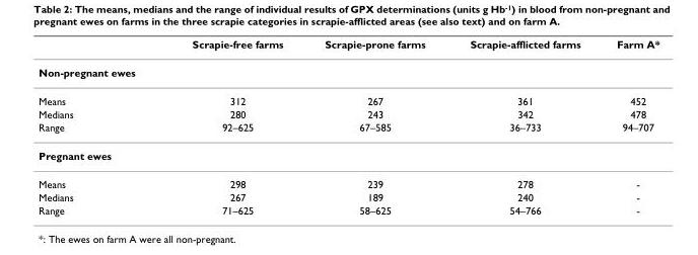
<table><thead><tr><td></td><td>Scrapie-free farms</td><td>Scrapie-prone farms</td><td>Scrapie-afflicted farms</td><td>Farm A*</td></tr></thead><tbody><tr><td colspan="5">Non-pregnant ewes</td></tr><tr><td>Means</td><td>312</td><td>267</td><td>361</td><td>452</td></tr><tr><td>Medians</td><td>280</td><td>243</td><td>342</td><td>478</td></tr><tr><td>Range</td><td>92–625</td><td>67–585</td><td>36–733</td><td>94–707</td></tr><tr><td colspan="5">Pregnant ewes</td></tr><tr><td>Means</td><td>298</td><td>239</td><td>278</td><td>-</td></tr><tr><td>Medians</td><td>267</td><td>189</td><td>240</td><td>-</td></tr><tr><td>Range</td><td>71–625</td><td>58–625</td><td>54–766</td><td>-</td></tr></tbody></table>